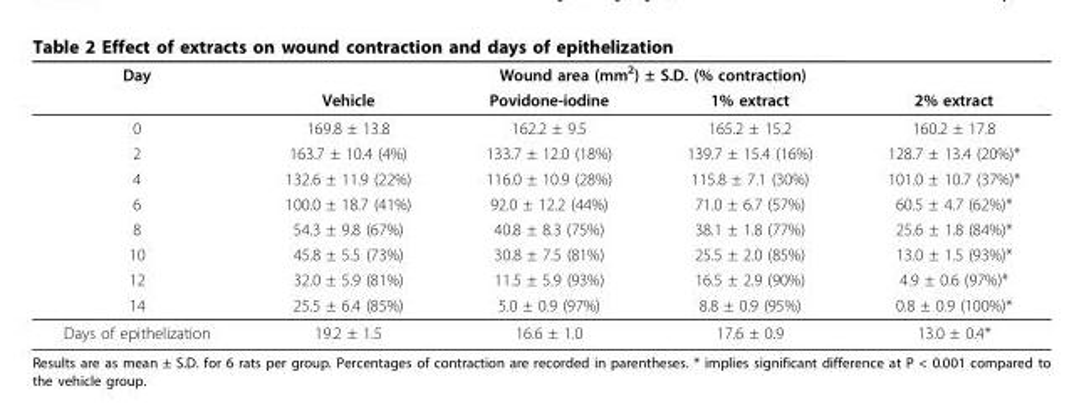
<table><thead><tr><td rowspan="2">Day</td><td colspan="4">Wound area (mm<sup>2</sup>) ± S.D. (% contraction)</td></tr><tr><td>Vehicle</td><td>Povidone-iodine</td><td>1% extract</td><td>2% extract</td></tr></thead><tbody><tr><td>0</td><td>169.8 ± 13.8</td><td>162.2 ± 9.5</td><td>165.2 ± 15.2</td><td>160.2 ± 17.8</td></tr><tr><td>2</td><td>163.7 ± 10.4 (4%)</td><td>133.7 ± 12.0 (18%)</td><td>139.7 ± 15.4 (16%)</td><td>128.7 ± 13.4 (20%)*</td></tr><tr><td>4</td><td>132.6 ± 11.9 (22%)</td><td>116.0 ± 10.9 (28%)</td><td>115.8 ± 7.1 (30%)</td><td>101.0 ± 10.7 (37%)*</td></tr><tr><td>6</td><td>100.0 ± 18.7 (41%)</td><td>92.0 ± 12.2 (44%)</td><td>71.0 ± 6.7 (57%)</td><td>60.5 ± 4.7 (62%)*</td></tr><tr><td>8</td><td>54.3 ± 9.8 (67%)</td><td>40.8 ± 8.3 (75%)</td><td>38.1 ± 1.8 (77%)</td><td>25.6 ± 1.8 (84%)*</td></tr><tr><td>10</td><td>45.8 ± 5.5 (73%)</td><td>30.8 ± 7.5 (81%)</td><td>25.5 ± 2.0 (85%)</td><td>13.0 ± 1.5 (93%)*</td></tr><tr><td>12</td><td>32.0 ± 5.9 (81%)</td><td>11.5 ± 5.9 (93%)</td><td>16.5 ± 2.9 (90%)</td><td>4.9 ± 0.6 (97%)*</td></tr><tr><td>14</td><td>25.5 ± 6.4 (85%)</td><td>5.0 ± 0.9 (97%)</td><td>8.8 ± 0.9 (95%)</td><td>0.8 ± 0.9 (100%)*</td></tr><tr><td>Days of epithelization</td><td>19.2 ± 1.5</td><td>16.6 ± 1.0</td><td>17.6 ± 0.9</td><td>13.0 ± 0.4*</td></tr></tbody></table>